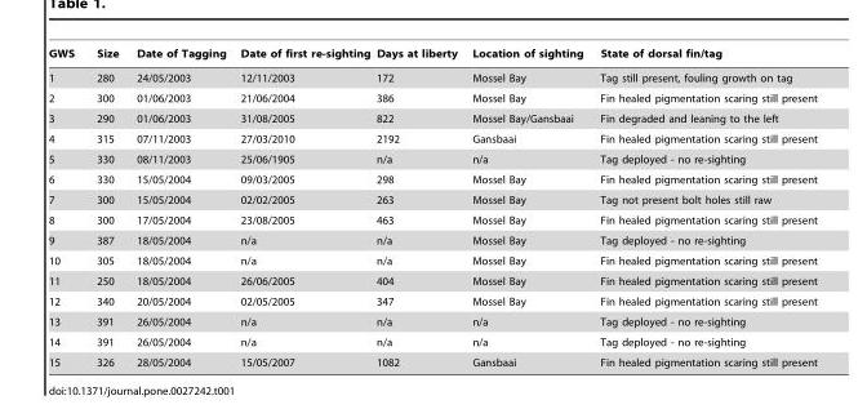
<table><thead><tr><td>GWS</td><td>Size</td><td>Date of Tagging</td><td>Date of first re-sighting</td><td>Days at liberty</td><td>Location of sighting</td><td>State of dorsal fin/tag</td></tr></thead><tbody><tr><td>1</td><td>280</td><td>24/05/2003</td><td>12/11/2003</td><td>172</td><td>Mossel Bay</td><td>Tag still present, fouling growth on tag</td></tr><tr><td>2</td><td>300</td><td>01/06/2003</td><td>21/06/2004</td><td>386</td><td>Mossel Bay</td><td>Fin healed pigmentation scaring still present</td></tr><tr><td>3</td><td>290</td><td>01/06/2003</td><td>31/08/2005</td><td>822</td><td>Mossel Bay/Gansbaai</td><td>Fin degraded and leaning to the left</td></tr><tr><td>4</td><td>315</td><td>07/11/2003</td><td>27/03/2010</td><td>2192</td><td>Gansbaai</td><td>Fin healed pigmentation scaring still present</td></tr><tr><td>5</td><td>330</td><td>08/11/2003</td><td>25/06/1905</td><td>n/a</td><td>n/a</td><td>Tag deployed - no re-sighting</td></tr><tr><td>6</td><td>330</td><td>15/05/2004</td><td>09/03/2005</td><td>298</td><td>Mossel Bay</td><td>Fin healed pigmentation scaring still present</td></tr><tr><td>7</td><td>300</td><td>15/05/2004</td><td>02/02/2005</td><td>263</td><td>Mossel Bay</td><td>Tag not present bolt holes still raw</td></tr><tr><td>8</td><td>300</td><td>17/05/2004</td><td>23/08/2005</td><td>463</td><td>Mossel Bay</td><td>Fin healed pigmentation scaring still present</td></tr><tr><td>9</td><td>387</td><td>18/05/2004</td><td>n/a</td><td>n/a</td><td>Mossel Bay</td><td>Tag deployed - no re-sighting</td></tr><tr><td>10</td><td>305</td><td>18/05/2004</td><td>n/a</td><td>n/a</td><td>Mossel Bay</td><td>Fin healed pigmentation scaring still present</td></tr><tr><td>11</td><td>250</td><td>18/05/2004</td><td>26/06/2005</td><td>404</td><td>Mossel Bay</td><td>Fin healed pigmentation scaring still present</td></tr><tr><td>12</td><td>340</td><td>20/05/2004</td><td>02/05/2005</td><td>347</td><td>Mossel Bay</td><td>Fin healed pigmentation scaring still present</td></tr><tr><td>13</td><td>391</td><td>26/05/2004</td><td>n/a</td><td>n/a</td><td>n/a</td><td>Tag deployed - no re-sighting</td></tr><tr><td>14</td><td>391</td><td>26/05/2004</td><td>n/a</td><td>n/a</td><td>n/a</td><td>Tag deployed - no re-sighting</td></tr><tr><td>15</td><td>326</td><td>28/05/2004</td><td>15/05/2007</td><td>1082</td><td>Gansbaai</td><td>Fin healed pigmentation scaring still present</td></tr></tbody></table>